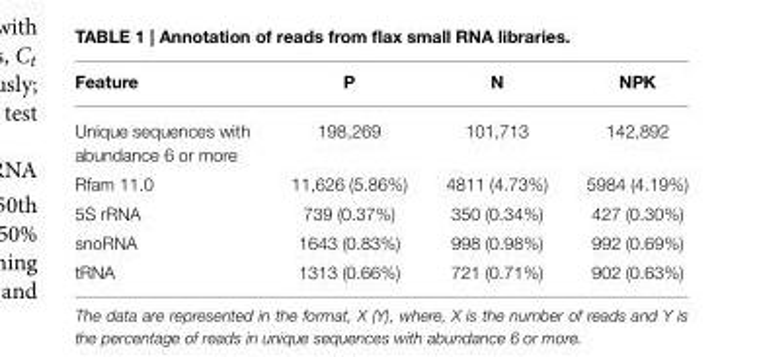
<table><thead><tr><td>Feature</td><td>P</td><td>N</td><td>NPK</td></tr></thead><tbody><tr><td>Unique sequences with abundance 6 or more</td><td>198,269</td><td>101,713</td><td>142,892</td></tr><tr><td>Rfam 11.0</td><td>11,626 (5.86%)</td><td>4811 (4.73%)</td><td>5984 (4.19%)</td></tr><tr><td>5S rRNA</td><td>739 (0.37%)</td><td>350 (0.34%)</td><td>427 (0.30%)</td></tr><tr><td>snoRNA</td><td>1643 (0.83%)</td><td>998 (0.98%)</td><td>992 (0.69%)</td></tr><tr><td>tRNA</td><td>1313 (0.66%)</td><td>721 (0.71%)</td><td>902 (0.63%)</td></tr></tbody></table>